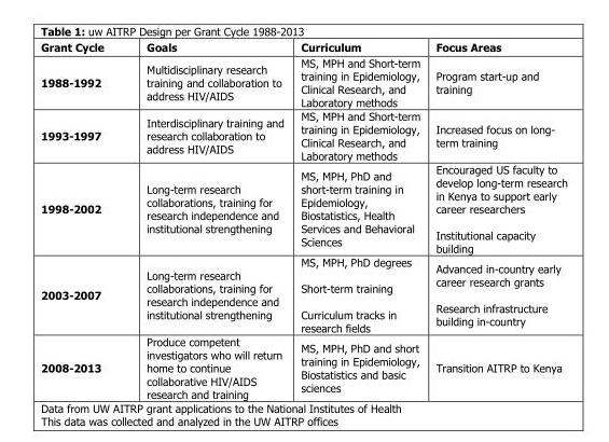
<table><thead><tr><td>Grant Cycle</td><td>Goals</td><td>Curriculum</td><td>Focus Areas</td></tr></thead><tbody><tr><td>1988-1992</td><td>Multidisciplinary research training and collaboration to address HIV/AIDS</td><td>MS, MPH and Short-term training in Epidemiology, Clinical Research, and Laboratory methods</td><td>Program start-up and training</td></tr><tr><td>1993-1997</td><td>Interdisciplinary training and research collaboration to address HIV/AIDS</td><td>MS, MPH and Short-term training in Epidemiology, Clinical Research, and Laboratory methods</td><td>Increased focus on long- term training</td></tr><tr><td>1998-2002</td><td>Long-term research collaborations, training for research independence and institutional strengthening</td><td>MS, MPH, PhD and short-term training in Epidemiology, Biostatistics, Health Services and Behavioral Sciences</td><td>Encouraged US faculty to develop long-term research in Kenya to support early career researchers Institutional capacity building</td></tr><tr><td>2003-2007</td><td>Long-term research collaborations, training for research independence and institutional strengthening</td><td>MS, MPH, PhD degrees Short-term training Curriculum tracks in research fields</td><td>Advanced in-country early career research grants Research infrastructure building in-country</td></tr><tr><td>2008-2013</td><td>Produce competent investigators who will return home to continue collaborative HIV/AIDS research and training</td><td>MS, MPH, PhD and short training in Epidemiology, Biostatistics and basic sciences</td><td>Transition AITRP to Kenya</td></tr></tbody></table>